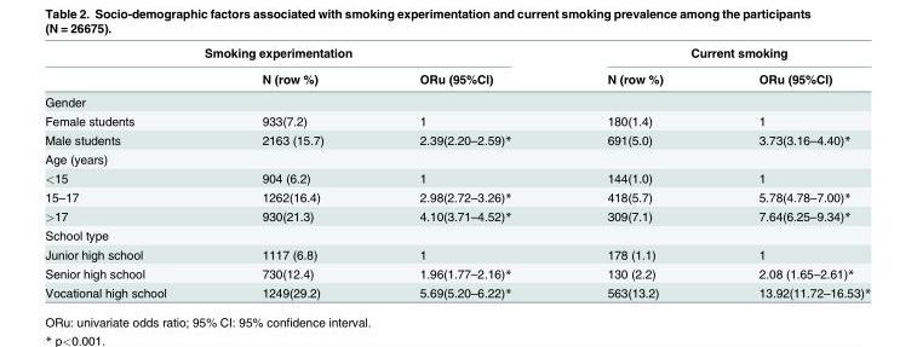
<table><thead><tr><td colspan="3">Smoking experimentation</td><td colspan="2">Current smoking</td></tr><tr><td></td><td>N (row %)</td><td>ORu (95%CI)</td><td>N (row %)</td><td>ORu (95%CI)</td></tr></thead><tbody><tr><td colspan="5">Gender</td></tr><tr><td>Female students</td><td>933(7.2)</td><td>1</td><td>180(1.4)</td><td>1</td></tr><tr><td>Male students</td><td>2163 (15.7)</td><td>2.39(2.20–2.59)*</td><td>691(5.0)</td><td>3.73(3.16–4.40)*</td></tr><tr><td colspan="5">Age (years)</td></tr><tr><td>&lt;15</td><td>904 (6.2)</td><td>1</td><td>144(1.0)</td><td>1</td></tr><tr><td>15–17</td><td>1262(16.4)</td><td>2.98(2.72–3.26)*</td><td>418(5.7)</td><td>5.78(4.78–7.00)*</td></tr><tr><td>&gt;17</td><td>930(21.3)</td><td>4.10(3.71–4.52)*</td><td>309(7.1)</td><td>7.64(6.25–9.34)*</td></tr><tr><td colspan="5">School type</td></tr><tr><td>Junior high school</td><td>1117 (6.8)</td><td>1</td><td>178 (1.1)</td><td>1</td></tr><tr><td>Senior high school</td><td>730(12.4)</td><td>1.96(1.77–2.16)*</td><td>130 (2.2)</td><td>2.08 (1.65–2.61)*</td></tr><tr><td>Vocational high school</td><td>1249(29.2)</td><td>5.69(5.20–6.22)*</td><td>563(13.2)</td><td>13.92(11.72–16.53)*</td></tr></tbody></table>